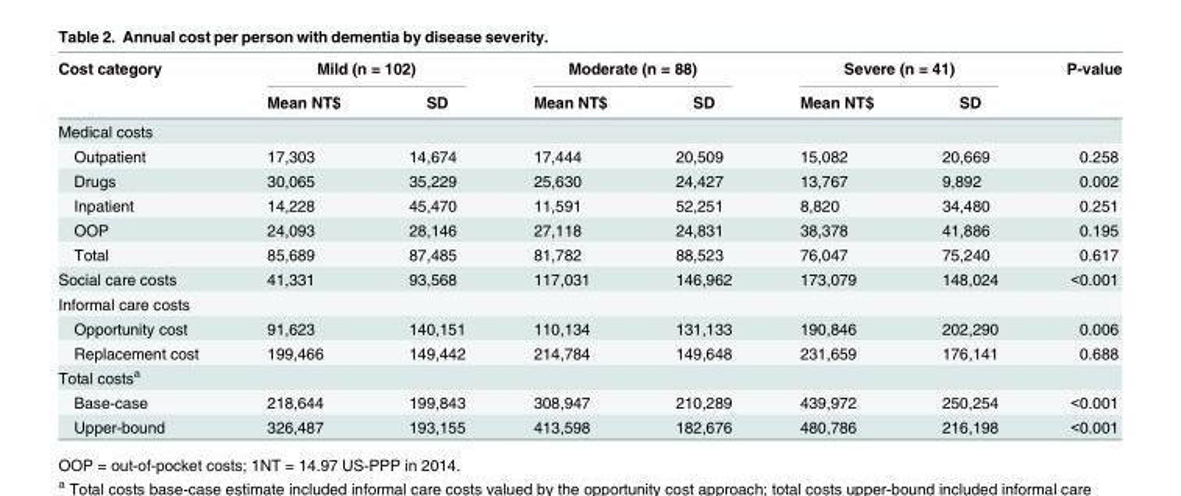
<table><thead><tr><td rowspan="2">Cost category</td><td colspan="2">Mild (n = 102)</td><td colspan="2">Moderate (n = 88)</td><td colspan="2">Severe (n = 41)</td><td rowspan="2">P-value</td></tr><tr><td>Mean NT$</td><td>SD</td><td>Mean NT$</td><td>SD</td><td>Mean NT$</td><td>SD</td></tr></thead><tbody><tr><td colspan="8">Medical costs</td></tr><tr><td>Outpatient</td><td>17,303</td><td>14,674</td><td>17,444</td><td>20,509</td><td>15,082</td><td>20,669</td><td>0.258</td></tr><tr><td>Drugs</td><td>30,065</td><td>35,229</td><td>25,630</td><td>24,427</td><td>13,767</td><td>9,892</td><td>0.002</td></tr><tr><td>Inpatient</td><td>14,228</td><td>45,470</td><td>11,591</td><td>52,251</td><td>8,820</td><td>34,480</td><td>0.251</td></tr><tr><td>OOP</td><td>24,093</td><td>28,146</td><td>27,118</td><td>24,831</td><td>38,378</td><td>41,886</td><td>0.195</td></tr><tr><td>Total</td><td>85,689</td><td>87,485</td><td>81,782</td><td>88,523</td><td>76,047</td><td>75,240</td><td>0.617</td></tr><tr><td>Social care costs</td><td>41,331</td><td>93,568</td><td>117,031</td><td>146,962</td><td>173,079</td><td>148,024</td><td>&lt;0.001</td></tr><tr><td colspan="8">Informal care costs</td></tr><tr><td>Opportunity cost</td><td>91,623</td><td>140,151</td><td>110,134</td><td>131,133</td><td>190,846</td><td>202,290</td><td>0.006</td></tr><tr><td>Replacement cost</td><td>199,466</td><td>149,442</td><td>214,784</td><td>149,648</td><td>231,659</td><td>176,141</td><td>0.688</td></tr><tr><td colspan="8">Total costs<sup>a</sup></td></tr><tr><td>Base-case</td><td>218,644</td><td>199,843</td><td>308,947</td><td>210,289</td><td>439,972</td><td>250,254</td><td>&lt;0.001</td></tr><tr><td>Upper-bound</td><td>326,487</td><td>193,155</td><td>413,598</td><td>182,676</td><td>480,786</td><td>216,198</td><td>&lt;0.001</td></tr></tbody></table>